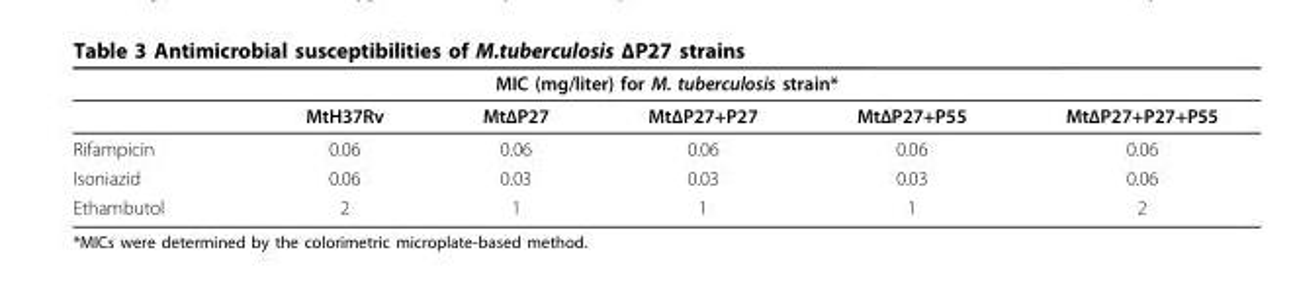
<table><thead><tr><td colspan="6">MIC (mg/liter) for M. tuberculosis strain*</td></tr><tr><td></td><td>MtH37Rv</td><td>MtΔP27</td><td>MtΔP27+P27</td><td>MtΔP27+P55</td><td>MtΔP27+P27+P55</td></tr></thead><tbody><tr><td>Rifampicin</td><td>0.06</td><td>0.06</td><td>0.06</td><td>0.06</td><td>0.06</td></tr><tr><td>Isoniazid</td><td>0.06</td><td>0.03</td><td>0.03</td><td>0.03</td><td>0.06</td></tr><tr><td>Ethambutol</td><td>2</td><td>1</td><td>1</td><td>1</td><td>2</td></tr></tbody></table>